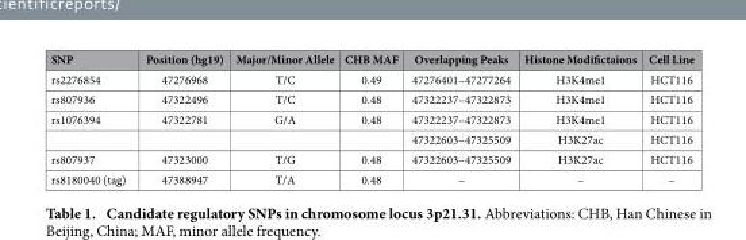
<table><thead><tr><td>SNP</td><td>Position (hg19)</td><td>Major/Minor Allele</td><td>CHB MAF</td><td>Overlapping Peaks</td><td>Histone Modifictaions</td><td>Cell Line</td></tr></thead><tbody><tr><td>rs2276854</td><td>47276968</td><td>T/C</td><td>0.49</td><td>47276401–47277264</td><td>H3K4me1</td><td>HCT116</td></tr><tr><td>rs807936</td><td>47322496</td><td>T/C</td><td>0.48</td><td>47322237–47322873</td><td>H3K4me1</td><td>HCT116</td></tr><tr><td rowspan="2">rs1076394</td><td>47322781</td><td>G/A</td><td>0.48</td><td>47322237–47322873</td><td>H3K4me1</td><td>HCT116</td></tr><tr><td></td><td></td><td></td><td>47322603–47325509</td><td>H3K27ac</td><td>HCT116</td></tr><tr><td>rs807937</td><td>47323000</td><td>T/G</td><td>0.48</td><td>47322603–47325509</td><td>H3K27ac</td><td>HCT116</td></tr><tr><td>rs8180040 (tag)</td><td>47388947</td><td>T/A</td><td>0.48</td><td>–</td><td>–</td><td>–</td></tr></tbody></table>